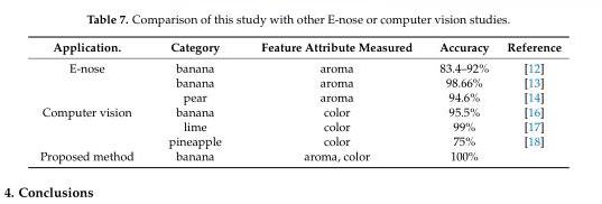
<table><thead><tr><td>Application.</td><td>Category</td><td>Feature Attribute Measured</td><td>Accuracy</td><td>Reference</td></tr></thead><tbody><tr><td rowspan="3">E-nose</td><td>banana</td><td>aroma</td><td>83.4–92%</td><td>[12]</td></tr><tr><td>banana</td><td>aroma</td><td>98.66%</td><td>[13]</td></tr><tr><td>pear</td><td>aroma</td><td>94.6%</td><td>[14]</td></tr><tr><td rowspan="3">Computer vision</td><td>banana</td><td>color</td><td>95.5%</td><td>[16]</td></tr><tr><td>lime</td><td>color</td><td>99%</td><td>[17]</td></tr><tr><td>pineapple</td><td>color</td><td>75%</td><td>[18]</td></tr><tr><td>Proposed method</td><td>banana</td><td>aroma, color</td><td>100%</td><td></td></tr></tbody></table>